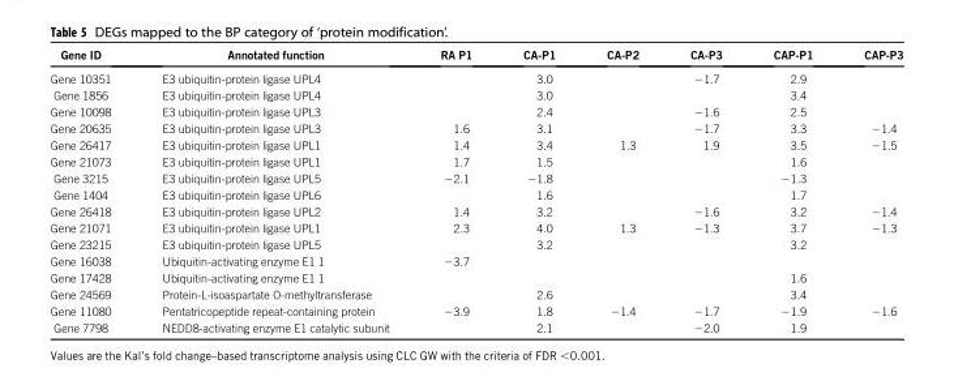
<table><thead><tr><td>Gene ID</td><td>Annotated function</td><td>RA P1</td><td>CA-P1</td><td>CA-P2</td><td>CA-P3</td><td>CAP-P1</td><td>CAP-P3</td></tr></thead><tbody><tr><td>Gene 10351</td><td>E3 ubiquitin-protein ligase UPL4</td><td></td><td>3.0</td><td></td><td>−1.7</td><td>2.9</td><td></td></tr><tr><td>Gene 1856</td><td>E3 ubiquitin-protein ligase UPL4</td><td></td><td>3.0</td><td></td><td></td><td>3.4</td><td></td></tr><tr><td>Gene 10098</td><td>E3 ubiquitin-protein ligase UPL3</td><td></td><td>2.4</td><td></td><td>−1.6</td><td>2.5</td><td></td></tr><tr><td>Gene 20635</td><td>E3 ubiquitin-protein ligase UPL3</td><td>1.6</td><td>3.1</td><td></td><td>−1.7</td><td>3.3</td><td>−1.4</td></tr><tr><td>Gene 26417</td><td>E3 ubiquitin-protein ligase UPL1</td><td>1.4</td><td>3.4</td><td>1.3</td><td>1.9</td><td>3.5</td><td>−1.5</td></tr><tr><td>Gene 21073</td><td>E3 ubiquitin-protein ligase UPL1</td><td>1.7</td><td>1.5</td><td></td><td></td><td>1.6</td><td></td></tr><tr><td>Gene 3215</td><td>E3 ubiquitin-protein ligase UPL5</td><td>−2.1</td><td>−1.8</td><td></td><td></td><td>−1.3</td><td></td></tr><tr><td>Gene 1404</td><td>E3 ubiquitin-protein ligase UPL6</td><td></td><td>1.6</td><td></td><td></td><td>1.7</td><td></td></tr><tr><td>Gene 26418</td><td>E3 ubiquitin-protein ligase UPL2</td><td>1.4</td><td>3.2</td><td></td><td>−1.6</td><td>3.2</td><td>−1.4</td></tr><tr><td>Gene 21071</td><td>E3 ubiquitin-protein ligase UPL1</td><td>2.3</td><td>4.0</td><td>1.3</td><td>−1.3</td><td>3.7</td><td>−1.3</td></tr><tr><td>Gene 23215</td><td>E3 ubiquitin-protein ligase UPL5</td><td></td><td>3.2</td><td></td><td></td><td>3.2</td><td></td></tr><tr><td>Gene 16038</td><td>Ubiquitin-activating enzyme E1 1</td><td>−3.7</td><td></td><td></td><td></td><td></td><td></td></tr><tr><td>Gene 17428</td><td>Ubiquitin-activating enzyme E1 1</td><td></td><td></td><td></td><td></td><td>1.6</td><td></td></tr><tr><td>Gene 24569</td><td>Protein-L-isoaspartate O-methyltransferase</td><td></td><td>2.6</td><td></td><td></td><td>3.4</td><td></td></tr><tr><td>Gene 11080</td><td>Pentatricopeptide repeat-containing protein</td><td>−3.9</td><td>1.8</td><td>−1.4</td><td>−1.7</td><td>−1.9</td><td>−1.6</td></tr><tr><td>Gene 7798</td><td>NEDD8-activating enzyme E1 catalytic subunit</td><td></td><td>2.1</td><td></td><td>−2.0</td><td>1.9</td><td></td></tr></tbody></table>